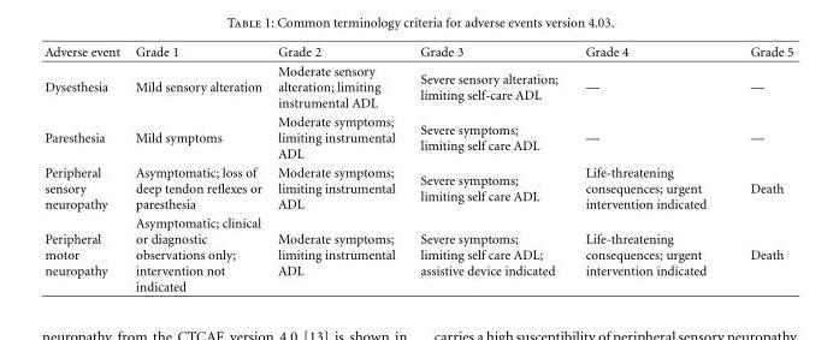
<table><thead><tr><td>Adverse event</td><td>Grade 1</td><td>Grade 2</td><td>Grade 3</td><td>Grade 4</td><td>Grade 5</td></tr></thead><tbody><tr><td>Dysesthesia</td><td>Mild sensory alteration</td><td>Moderate sensory alteration; limiting instrumental ADL</td><td>Severe sensory alteration; limiting self-care ADL</td><td>—</td><td>—</td></tr><tr><td>Paresthesia</td><td>Mild symptoms</td><td>Moderate symptoms; limiting instrumental ADL</td><td>Severe symptoms; limiting self care ADL</td><td>—</td><td>—</td></tr><tr><td>Peripheral sensory neuropathy</td><td>Asymptomatic; loss of deep tendon reflexes or paresthesia</td><td>Moderate symptoms; limiting instrumental ADL</td><td>Severe symptoms; limiting self care ADL</td><td>Life-threatening consequences; urgent intervention indicated</td><td>Death</td></tr><tr><td>Peripheral motor neuropathy</td><td>Asymptomatic; clinical or diagnostic observations only; intervention not indicated</td><td>Moderate symptoms; limiting instrumental ADL</td><td>Severe symptoms; limiting self care ADL; assistive device indicated</td><td>Life-threatening consequences; urgent intervention indicated</td><td>Death</td></tr></tbody></table>